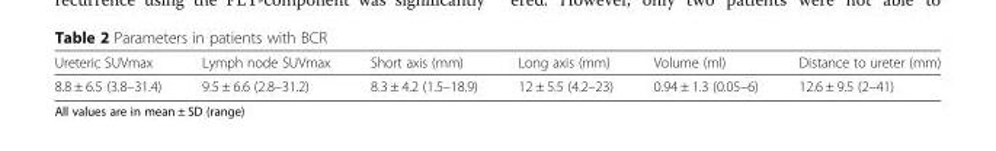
<table><thead><tr><td>Ureteric SUVmax</td><td>Lymph node SUVmax</td><td>Short axis (mm)</td><td>Long axis (mm)</td><td>Volume (ml)</td><td>Distance to ureter (mm)</td></tr></thead><tbody><tr><td>8.8 ± 6.5 (3.8–31.4)</td><td>9.5 ± 6.6 (2.8–31.2)</td><td>8.3 ± 4.2 (1.5–18.9)</td><td>12 ± 5.5 (4.2–23)</td><td>0.94 ± 1.3 (0.05–6)</td><td>12.6 ± 9.5 (2–41)</td></tr></tbody></table>